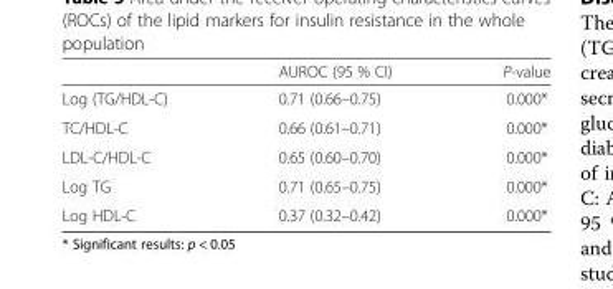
<table><thead><tr><td></td><td>AUROC (95 % CI)</td><td>P-value</td></tr></thead><tbody><tr><td>Log (TG/HDL-C)</td><td>0.71 (0.66–0.75)</td><td>0.000*</td></tr><tr><td>TC/HDL-C</td><td>0.66 (0.61–0.71)</td><td>0.000*</td></tr><tr><td>LDL-C/HDL-C</td><td>0.65 (0.60–0.70)</td><td>0.000*</td></tr><tr><td>Log TG</td><td>0.71 (0.65–0.75)</td><td>0.000*</td></tr><tr><td>Log HDL-C</td><td>0.37 (0.32–0.42)</td><td>0.000*</td></tr></tbody></table>